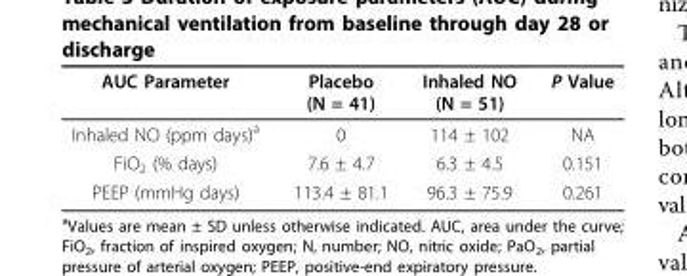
<table><thead><tr><td>AUC Parameter</td><td>Placebo (N = 41)</td><td>Inhaled NO (N = 51)</td><td>P Value</td></tr></thead><tbody><tr><td>Inhaled NO (ppm days)<sup>a</sup></td><td>0</td><td>114 ± 102</td><td>NA</td></tr><tr><td>FiO<sub>2</sub> (% days)</td><td>7.6 ± 4.7</td><td>6.3 ± 4.5</td><td>0.151</td></tr><tr><td>PEEP (mmHg days)</td><td>113.4 ± 81.1</td><td>96.3 ± 75.9</td><td>0.261</td></tr></tbody></table>